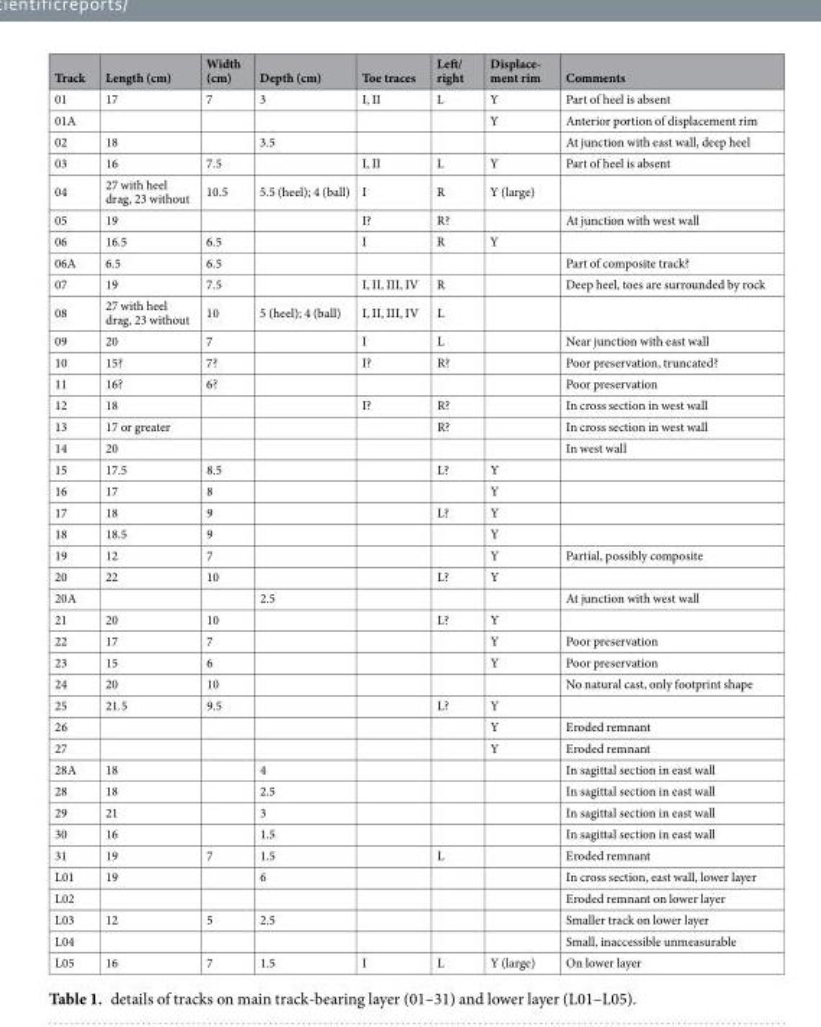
<table><thead><tr><td>Track</td><td>Length (cm)</td><td>Width (cm)</td><td>Depth (cm)</td><td>Toe traces</td><td>Left/ right</td><td>Displace- ment rim</td><td>Comments</td></tr></thead><tbody><tr><td>01</td><td>17</td><td>7</td><td>3</td><td>I, II</td><td>L</td><td>Y</td><td>Part of heel is absent</td></tr><tr><td>01A</td><td></td><td></td><td></td><td></td><td></td><td>Y</td><td>Anterior portion of displacement rim</td></tr><tr><td>02</td><td>18</td><td></td><td>3.5</td><td></td><td></td><td></td><td>At junction with east wall, deep heel</td></tr><tr><td>03</td><td>16</td><td>7.5</td><td></td><td>I, II</td><td>L</td><td>Y</td><td>Part of heel is absent</td></tr><tr><td>04</td><td>27 with heel drag, 23 without</td><td>10.5</td><td>5.5 (heel); 4 (ball)</td><td>I</td><td>R</td><td>Y (large)</td><td></td></tr><tr><td>05</td><td>19</td><td></td><td></td><td>I?</td><td>R?</td><td></td><td>At junction with west wall</td></tr><tr><td>06</td><td>16.5</td><td>6.5</td><td></td><td>I</td><td>R</td><td>Y</td><td></td></tr><tr><td>06A</td><td>6.5</td><td>6.5</td><td></td><td></td><td></td><td></td><td>Part of composite track?</td></tr><tr><td>07</td><td>19</td><td>7.5</td><td></td><td>I, II, III, IV</td><td>R</td><td></td><td>Deep heel, toes are surrounded by rock</td></tr><tr><td>08</td><td>27 with heel drag, 23 without</td><td>10</td><td>5 (heel); 4 (ball)</td><td>I, II, III, IV</td><td>L</td><td></td><td></td></tr><tr><td>09</td><td>20</td><td>7</td><td></td><td>I</td><td>L</td><td></td><td>Near junction with east wall</td></tr><tr><td>10</td><td>15?</td><td>7?</td><td></td><td>I?</td><td>R?</td><td></td><td>Poor preservation, truncated?</td></tr><tr><td>11</td><td>16?</td><td>6?</td><td></td><td></td><td></td><td></td><td>Poor preservation</td></tr><tr><td>12</td><td>18</td><td></td><td></td><td>I?</td><td>R?</td><td></td><td>In cross section in west wall</td></tr><tr><td>13</td><td>17 or greater</td><td></td><td></td><td></td><td>R?</td><td></td><td>In cross section in west wall</td></tr><tr><td>14</td><td>20</td><td></td><td></td><td></td><td></td><td></td><td>In west wall</td></tr><tr><td>15</td><td>17.5</td><td>8.5</td><td></td><td></td><td>L?</td><td>Y</td><td></td></tr><tr><td>16</td><td>17</td><td>8</td><td></td><td></td><td></td><td>Y</td><td></td></tr><tr><td>17</td><td>18</td><td>9</td><td></td><td></td><td>L?</td><td>Y</td><td></td></tr><tr><td>18</td><td>18.5</td><td>9</td><td></td><td></td><td></td><td>Y</td><td></td></tr><tr><td>19</td><td>12</td><td>7</td><td></td><td></td><td></td><td>Y</td><td>Partial, possibly composite</td></tr><tr><td>20</td><td>22</td><td>10</td><td></td><td></td><td>L?</td><td>Y</td><td></td></tr><tr><td>20A</td><td></td><td></td><td>2.5</td><td></td><td></td><td></td><td>At junction with west wall</td></tr><tr><td>21</td><td>20</td><td>10</td><td></td><td></td><td>L?</td><td>Y</td><td></td></tr><tr><td>22</td><td>17</td><td>7</td><td></td><td></td><td></td><td>Y</td><td>Poor preservation</td></tr><tr><td>23</td><td>15</td><td>6</td><td></td><td></td><td></td><td>Y</td><td>Poor preservation</td></tr><tr><td>24</td><td>20</td><td>10</td><td></td><td></td><td></td><td></td><td>No natural cast, only footprint shape</td></tr><tr><td>25</td><td>21.5</td><td>9.5</td><td></td><td></td><td>L?</td><td>Y</td><td></td></tr><tr><td>26</td><td></td><td></td><td></td><td></td><td></td><td>Y</td><td>Eroded remnant</td></tr><tr><td>27</td><td></td><td></td><td></td><td></td><td></td><td>Y</td><td>Eroded remnant</td></tr><tr><td>28A</td><td>18</td><td></td><td>4</td><td></td><td></td><td></td><td>In sagittal section in east wall</td></tr><tr><td>28</td><td>18</td><td></td><td>2.5</td><td></td><td></td><td></td><td>In sagittal section in east wall</td></tr><tr><td>29</td><td>21</td><td></td><td>3</td><td></td><td></td><td></td><td>In sagittal section in east wall</td></tr><tr><td>30</td><td>16</td><td></td><td>1.5</td><td></td><td></td><td></td><td>In sagittal section in east wall</td></tr><tr><td>31</td><td>19</td><td>7</td><td>1.5</td><td></td><td>L</td><td></td><td>Eroded remnant</td></tr><tr><td>L01</td><td>19</td><td></td><td>6</td><td></td><td></td><td></td><td>In cross section, east wall, lower layer</td></tr><tr><td>L02</td><td></td><td></td><td></td><td></td><td></td><td></td><td>Eroded remnant on lower layer</td></tr><tr><td>L03</td><td>12</td><td>5</td><td>2.5</td><td></td><td></td><td></td><td>Smaller track on lower layer</td></tr><tr><td>L04</td><td></td><td></td><td></td><td></td><td></td><td></td><td>Small, inaccessible unmeasurable</td></tr><tr><td>L05</td><td>16</td><td>7</td><td>1.5</td><td>I</td><td>L</td><td>Y (large)</td><td>On lower layer</td></tr></tbody></table>